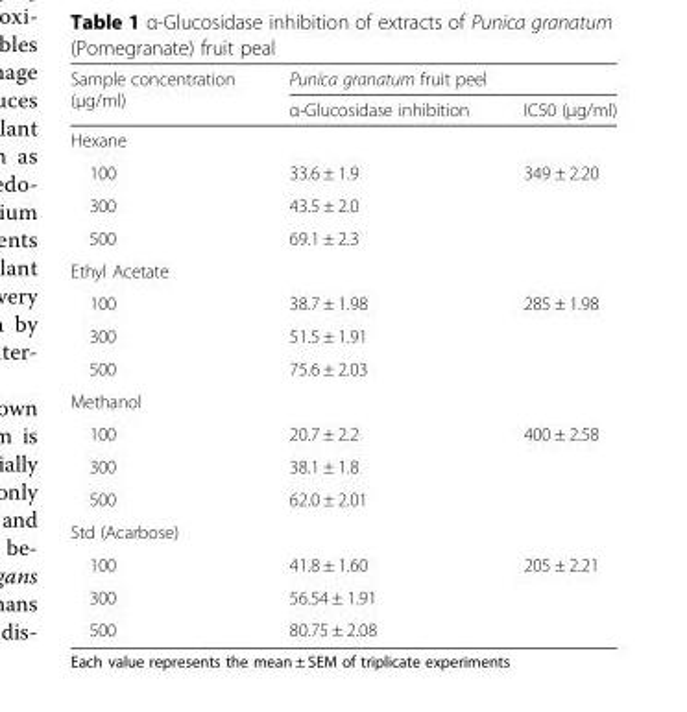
<table><thead><tr><td rowspan="2">Sample concentration (μg/ml)</td><td colspan="2">Punica granatum fruit peel</td></tr><tr><td>α-Glucosidase inhibition</td><td>IC50 (μg/ml)</td></tr></thead><tbody><tr><td colspan="3">Hexane</td></tr><tr><td>100</td><td>33.6 ± 1.9</td><td rowspan="3">349 ± 2.20</td></tr><tr><td>300</td><td>43.5 ± 2.0</td></tr><tr><td>500</td><td>69.1 ± 2.3</td></tr><tr><td colspan="3">Ethyl Acetate</td></tr><tr><td>100</td><td>38.7 ± 1.98</td><td rowspan="3">285 ± 1.98</td></tr><tr><td>300</td><td>51.5 ± 1.91</td></tr><tr><td>500</td><td>75.6 ± 2.03</td></tr><tr><td colspan="3">Methanol</td></tr><tr><td>100</td><td>20.7 ± 2.2</td><td rowspan="3">400 ± 2.58</td></tr><tr><td>300</td><td>38.1 ± 1.8</td></tr><tr><td>500</td><td>62.0 ± 2.01</td></tr><tr><td colspan="3">Std (Acarbose)</td></tr><tr><td>100</td><td>41.8 ± 1.60</td><td rowspan="3">205 ± 2.21</td></tr><tr><td>300</td><td>56.54 ± 1.91</td></tr><tr><td>500</td><td>80.75 ± 2.08</td></tr></tbody></table>